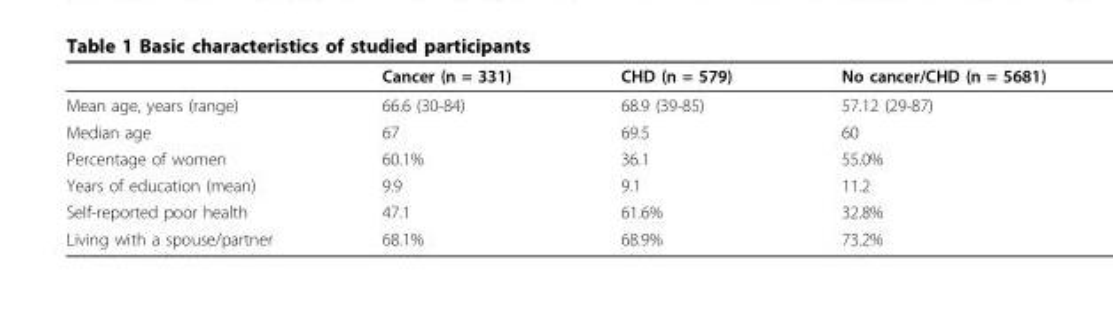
<table><thead><tr><td></td><td>Cancer (n = 331)</td><td>CHD (n = 579)</td><td>No cancer/CHD (n = 5681)</td></tr></thead><tbody><tr><td>Mean age, years (range)</td><td>66.6 (30-84)</td><td>68.9 (39-85)</td><td>57.12 (29-87)</td></tr><tr><td>Median age</td><td>67</td><td>69.5</td><td>60</td></tr><tr><td>Percentage of women</td><td>60.1%</td><td>36.1</td><td>55.0%</td></tr><tr><td>Years of education (mean)</td><td>9.9</td><td>9.1</td><td>11.2</td></tr><tr><td>Self-reported poor health</td><td>47.1</td><td>61.6%</td><td>32.8%</td></tr><tr><td>Living with a spouse/partner</td><td>68.1%</td><td>68.9%</td><td>73.2%</td></tr></tbody></table>